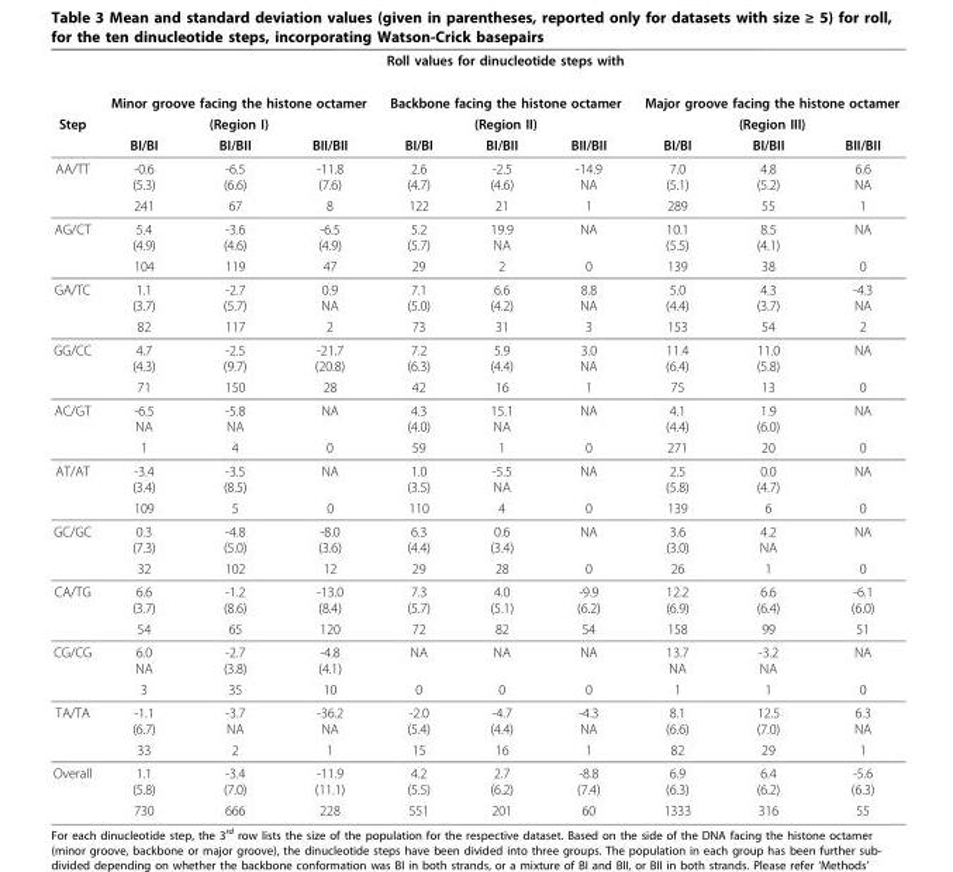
<table><thead><tr><td rowspan="4">Step</td><td colspan="9">Roll values for dinucleotide steps with</td></tr><tr><td rowspan="2" colspan="3">Minor groove facing the histone octamer (Region I)</td><td rowspan="2" colspan="3">Backbone facing the histone octamer (Region II)</td><td rowspan="2" colspan="3">Major groove facing the histone octamer (Region III)</td></tr><tr></tr><tr><td>BI/BI</td><td>BI/BII</td><td>BII/BII</td><td>BI/BI</td><td>BI/BII</td><td>BII/BII</td><td>BI/BI</td><td>BI/BII</td><td>BII/BII</td></tr></thead><tbody><tr><td rowspan="2">AA/TT</td><td>-0.6 (5.3)</td><td>-6.5 (6.6)</td><td>-11.8 (7.6)</td><td>2.6 (4.7)</td><td>-2.5 (4.6)</td><td>-14.9 NA</td><td>7.0 (5.1)</td><td>4.8 (5.2)</td><td>6.6 NA</td></tr><tr><td>241</td><td>67</td><td>8</td><td>122</td><td>21</td><td>1</td><td>289</td><td>55</td><td>1</td></tr><tr><td rowspan="2">AG/CT</td><td>5.4 (4.9)</td><td>-3.6 (4.6)</td><td>-6.5 (4.9)</td><td>5.2 (5.7)</td><td>19.9 NA</td><td>NA</td><td>10.1 (5.5)</td><td>8.5 (4.1)</td><td>NA</td></tr><tr><td>104</td><td>119</td><td>47</td><td>29</td><td>2</td><td>0</td><td>139</td><td>38</td><td>0</td></tr><tr><td rowspan="2">GA/TC</td><td>1.1 (3.7)</td><td>-2.7 (5.7)</td><td>0.9 NA</td><td>7.1 (5.0)</td><td>6.6 (4.2)</td><td>8.8 NA</td><td>5.0 (4.4)</td><td>4.3 (3.7)</td><td>-4.3 NA</td></tr><tr><td>82</td><td>117</td><td>2</td><td>73</td><td>31</td><td>3</td><td>153</td><td>54</td><td>2</td></tr><tr><td rowspan="2">GG/CC</td><td>4.7 (4.3)</td><td>-2.5 (9.7)</td><td>-21.7 (20.8)</td><td>7.2 (6.3)</td><td>5.9 (4.4)</td><td>3.0 NA</td><td>11.4 (6.4)</td><td>11.0 (5.8)</td><td>NA</td></tr><tr><td>71</td><td>150</td><td>28</td><td>42</td><td>16</td><td>1</td><td>75</td><td>13</td><td>0</td></tr><tr><td rowspan="2">AC/GT</td><td>-6.5 NA</td><td>-5.8 NA</td><td>NA</td><td>4.3 (4.0)</td><td>15.1 NA</td><td>NA</td><td>4.1 (4.4)</td><td>1.9 (6.0)</td><td>NA</td></tr><tr><td>1</td><td>4</td><td>0</td><td>59</td><td>1</td><td>0</td><td>271</td><td>20</td><td>0</td></tr><tr><td rowspan="2">AT/AT</td><td>-3.4 (3.4)</td><td>-3.5 (8.5)</td><td>NA</td><td>1.0 (3.5)</td><td>-5.5 NA</td><td>NA</td><td>2.5 (5.8)</td><td>0.0 (4.7)</td><td>NA</td></tr><tr><td>109</td><td>5</td><td>0</td><td>110</td><td>4</td><td>0</td><td>139</td><td>6</td><td>0</td></tr><tr><td rowspan="2">GC/GC</td><td>0.3 (7.3)</td><td>-4.8 (5.0)</td><td>-8.0 (3.6)</td><td>6.3 (4.4)</td><td>0.6 (3.4)</td><td>NA</td><td>3.6 (3.0)</td><td>4.2 NA</td><td>NA</td></tr><tr><td>32</td><td>102</td><td>12</td><td>29</td><td>28</td><td>0</td><td>26</td><td>1</td><td>0</td></tr><tr><td rowspan="2">CA/TG</td><td>6.6 (3.7)</td><td>-1.2 (8.6)</td><td>-13.0 (8.4)</td><td>7.3 (5.7)</td><td>4.0 (5.1)</td><td>-9.9 (6.2)</td><td>12.2 (6.9)</td><td>6.6 (6.4)</td><td>-6.1 (6.0)</td></tr><tr><td>54</td><td>65</td><td>120</td><td>72</td><td>82</td><td>54</td><td>158</td><td>99</td><td>51</td></tr><tr><td rowspan="2">CG/CG</td><td>6.0 NA</td><td>-2.7 (3.8)</td><td>-4.8 (4.1)</td><td>NA</td><td>NA</td><td>NA</td><td>13.7 NA</td><td>-3.2 NA</td><td>NA</td></tr><tr><td>3</td><td>35</td><td>10</td><td>0</td><td>0</td><td>0</td><td>1</td><td>1</td><td>0</td></tr><tr><td rowspan="2">TA/TA</td><td>-1.1 (6.7)</td><td>-3.7 NA</td><td>-36.2 NA</td><td>-2.0 (5.4)</td><td>-4.7 (4.4)</td><td>-4.3 NA</td><td>8.1 (6.6)</td><td>12.5 (7.0)</td><td>6.3 NA</td></tr><tr><td>33</td><td>2</td><td>1</td><td>15</td><td>16</td><td>1</td><td>82</td><td>29</td><td>1</td></tr><tr><td rowspan="2">Overall</td><td>1.1 (5.8)</td><td>-3.4 (7.0)</td><td>-11.9 (11.1)</td><td>4.2 (5.5)</td><td>2.7 (6.2)</td><td>-8.8 (7.4)</td><td>6.9 (6.3)</td><td>6.4 (6.2)</td><td>-5.6 (6.3)</td></tr><tr><td>730</td><td>666</td><td>228</td><td>551</td><td>201</td><td>60</td><td>1333</td><td>316</td><td>55</td></tr></tbody></table>